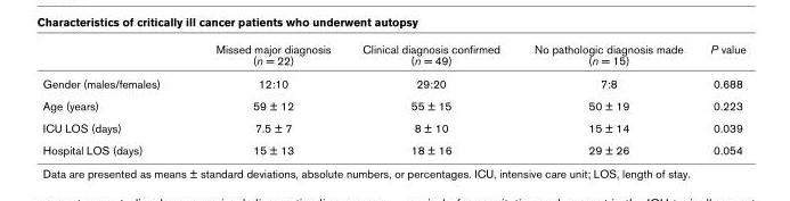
<table><thead><tr><td></td><td>Missed major diagnosis (n = 22)</td><td>Clinical diagnosis confirmed (n = 49)</td><td>No pathologic diagnosis made (n = 15)</td><td>P value</td></tr></thead><tbody><tr><td>Gender (males/females)</td><td>12:10</td><td>29:20</td><td>7:8</td><td>0.688</td></tr><tr><td>Age (years)</td><td>59 ± 12</td><td>55 ± 15</td><td>50 ± 19</td><td>0.223</td></tr><tr><td>ICU LOS (days)</td><td>7.5 ± 7</td><td>8 ± 10</td><td>15 ± 14</td><td>0.039</td></tr><tr><td>Hospital LOS (days)</td><td>15 ± 13</td><td>18 ± 16</td><td>29 ± 26</td><td>0.054</td></tr></tbody></table>